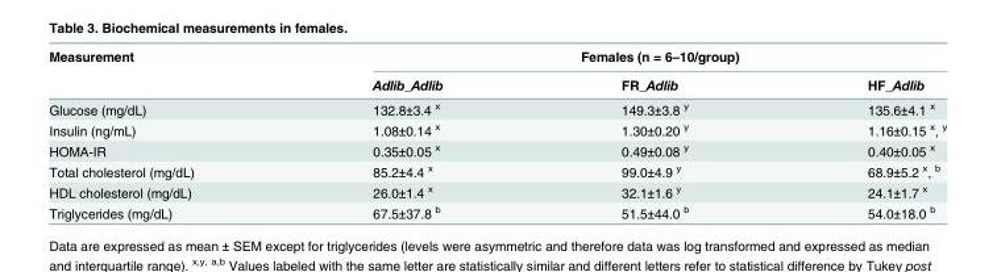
<table><thead><tr><td rowspan="2">Measurement</td><td colspan="3">Females (n = 6–10/group)</td></tr><tr><td>Adlib_Adlib</td><td>FR_Adlib</td><td>HF_Adlib</td></tr></thead><tbody><tr><td>Glucose (mg/dL)</td><td>132.8±3.4 <sup>x</sup></td><td>149.3±3.8 <sup>y</sup></td><td>135.6±4.1 <sup>x</sup></td></tr><tr><td>Insulin (ng/mL)</td><td>1.08±0.14 <sup>x</sup></td><td>1.30±0.20 <sup>y</sup></td><td>1.16±0.15 <sup>x</sup>, <sup>y</sup></td></tr><tr><td>HOMA-IR</td><td>0.35±0.05 <sup>x</sup></td><td>0.49±0.08 <sup>y</sup></td><td>0.40±0.05 <sup>x</sup></td></tr><tr><td>Total cholesterol (mg/dL)</td><td>85.2±4.4 <sup>x</sup></td><td>99.0±4.9 <sup>y</sup></td><td>68.9±5.2 <sup>x</sup>, <sup>b</sup></td></tr><tr><td>HDL cholesterol (mg/dL)</td><td>26.0±1.4 <sup>x</sup></td><td>32.1±1.6 <sup>y</sup></td><td>24.1±1.7 <sup>x</sup></td></tr><tr><td>Triglycerides (mg/dL)</td><td>67.5±37.8 <sup>b</sup></td><td>51.5±44.0 <sup>b</sup></td><td>54.0±18.0 <sup>b</sup></td></tr></tbody></table>